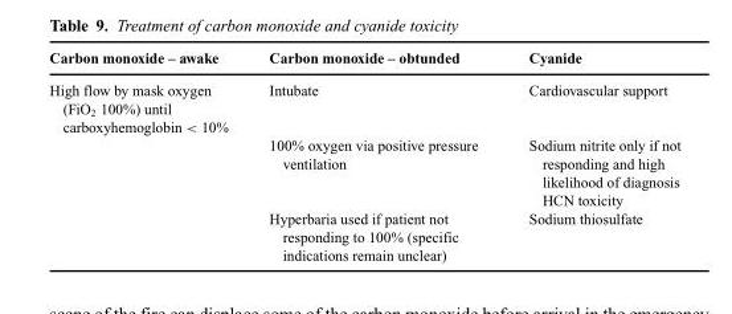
<table><thead><tr><td>Carbon monoxide – awake</td><td>Carbon monoxide – obtunded</td><td>Cyanide</td></tr></thead><tbody><tr><td rowspan="3">High flow by mask oxygen (FiO<sub>2</sub> 100%) until carboxyhemoglobin &lt; 10%</td><td>Intubate</td><td>Cardiovascular support</td></tr><tr><td>100% oxygen via positive pressure ventilation</td><td>Sodium nitrite only if not responding and high likelihood of diagnosis HCN toxicity</td></tr><tr><td>Hyperbaria used if patient not responding to 100% (specific indications remain unclear)</td><td>Sodium thiosulfate</td></tr></tbody></table>